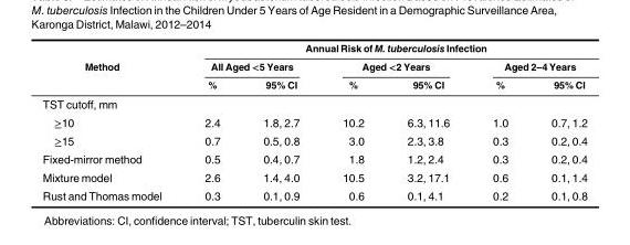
<table><thead><tr><td rowspan="3">Method</td><td colspan="6">Annual Risk of M. tuberculosis Infection</td></tr><tr><td colspan="2">All Aged &lt;5 Years</td><td colspan="2">Aged &lt;2 Years</td><td colspan="2">Aged 2–4 Years</td></tr><tr><td>%</td><td>95% CI</td><td>%</td><td>95% CI</td><td>%</td><td>95% CI</td></tr></thead><tbody><tr><td colspan="7">TST cutoff, mm</td></tr><tr><td>≥10</td><td>2.4</td><td>1.8, 2.7</td><td>10.2</td><td>6.3, 11.6</td><td>1.0</td><td>0.7, 1.2</td></tr><tr><td>≥15</td><td>0.7</td><td>0.5, 0.8</td><td>3.0</td><td>2.3, 3.8</td><td>0.3</td><td>0.2, 0.4</td></tr><tr><td>Fixed-mirror method</td><td>0.5</td><td>0.4, 0.7</td><td>1.8</td><td>1.2, 2.4</td><td>0.3</td><td>0.2, 0.4</td></tr><tr><td>Mixture model</td><td>2.6</td><td>1.4, 4.0</td><td>10.5</td><td>3.2, 17.1</td><td>0.6</td><td>0.1, 1.4</td></tr><tr><td>Rust and Thomas model</td><td>0.3</td><td>0.1, 0.9</td><td>0.6</td><td>0.1, 4.1</td><td>0.2</td><td>0.1, 0.8</td></tr></tbody></table>